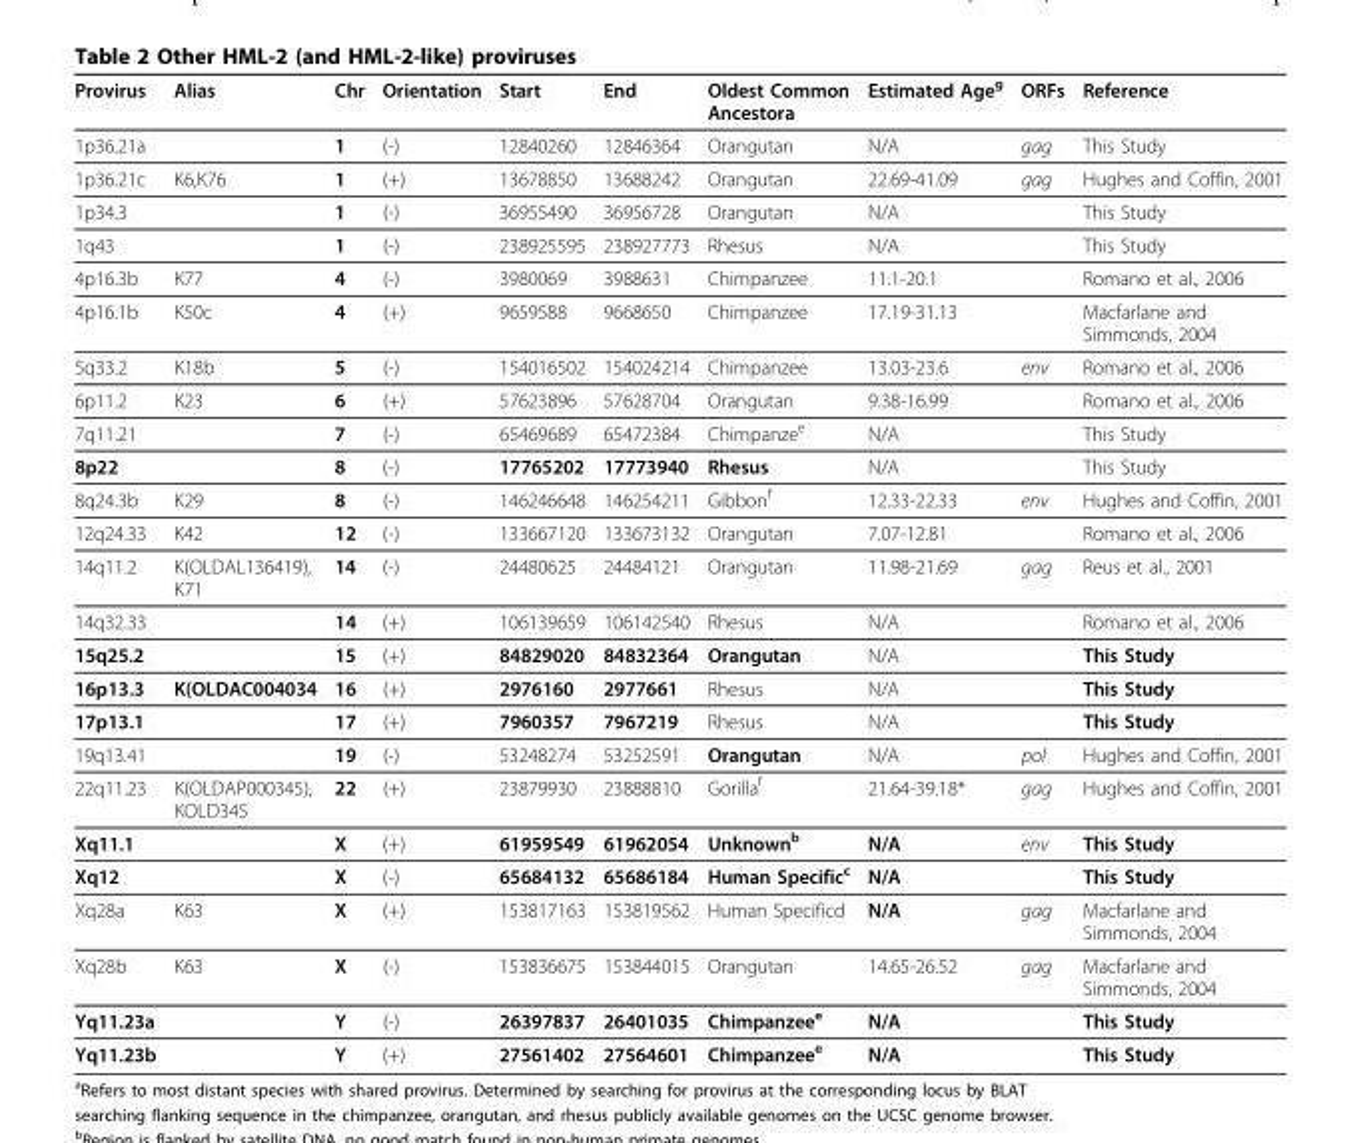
<table><thead><tr><td>Provirus</td><td>Alias</td><td>Chr</td><td>Orientation</td><td>Start</td><td>End</td><td>Oldest Common Ancestora</td><td>Estimated Age<sup>g</sup></td><td>ORFs</td><td>Reference</td></tr></thead><tbody><tr><td>1p36.21a</td><td></td><td>1</td><td>(-)</td><td>12840260</td><td>12846364</td><td>Orangutan</td><td>N/A</td><td>gag</td><td>This Study</td></tr><tr><td>1p36.21c</td><td>K6,K76</td><td>1</td><td>(+)</td><td>13678850</td><td>13688242</td><td>Orangutan</td><td>22.69-41.09</td><td>gag</td><td>Hughes and Coffin, 2001</td></tr><tr><td>1p34.3</td><td></td><td>1</td><td>(-)</td><td>36955490</td><td>36956728</td><td>Orangutan</td><td>N/A</td><td></td><td>This Study</td></tr><tr><td>1q43</td><td></td><td>1</td><td>(-)</td><td>238925595</td><td>238927773</td><td>Rhesus</td><td>N/A</td><td></td><td>This Study</td></tr><tr><td>4p16.3b</td><td>K77</td><td>4</td><td>(-)</td><td>3980069</td><td>3988631</td><td>Chimpanzee</td><td>11.1-20.1</td><td></td><td>Romano et al., 2006</td></tr><tr><td>4p16.1b</td><td>K50c</td><td>4</td><td>(+)</td><td>9659588</td><td>9668650</td><td>Chimpanzee</td><td>17.19-31.13</td><td></td><td>Macfarlane and Simmonds, 2004</td></tr><tr><td>5q33.2</td><td>K18b</td><td>5</td><td>(-)</td><td>154016502</td><td>154024214</td><td>Chimpanzee</td><td>13.03-23.6</td><td>env</td><td>Romano et al., 2006</td></tr><tr><td>6p11.2</td><td>K23</td><td>6</td><td>(+)</td><td>57623896</td><td>57628704</td><td>Orangutan</td><td>9.38-16.99</td><td></td><td>Romano et al., 2006</td></tr><tr><td>7q11.21</td><td></td><td>7</td><td>(-)</td><td>65469689</td><td>65472384</td><td>Chimpanze<sup>e</sup></td><td>N/A</td><td></td><td>This Study</td></tr><tr><td>8p22</td><td></td><td>8</td><td>(-)</td><td>17765202</td><td>17773940</td><td>Rhesus</td><td>N/A</td><td></td><td>This Study</td></tr><tr><td>8q24.3b</td><td>K29</td><td>8</td><td>(-)</td><td>146246648</td><td>146254211</td><td>Gibbon<sup>f</sup></td><td>12.33-22.33</td><td>env</td><td>Hughes and Coffin, 2001</td></tr><tr><td>12q24.33</td><td>K42</td><td>12</td><td>(-)</td><td>133667120</td><td>133673132</td><td>Orangutan</td><td>7.07-12.81</td><td></td><td>Romano et al., 2006</td></tr><tr><td>14q11.2</td><td>K(OLDAL136419), K71</td><td>14</td><td>(-)</td><td>24480625</td><td>24484121</td><td>Orangutan</td><td>11.98-21.69</td><td>gag</td><td>Reus et al., 2001</td></tr><tr><td>14q32.33</td><td></td><td>14</td><td>(+)</td><td>106139659</td><td>106142540</td><td>Rhesus</td><td>N/A</td><td></td><td>Romano et al., 2006</td></tr><tr><td>15q25.2</td><td></td><td>15</td><td>(+)</td><td>84829020</td><td>84832364</td><td>Orangutan</td><td>N/A</td><td></td><td>This Study</td></tr><tr><td>16p13.3</td><td>K(OLDAC004034</td><td>16</td><td>(+)</td><td>2976160</td><td>2977661</td><td>Rhesus</td><td>N/A</td><td></td><td>This Study</td></tr><tr><td>17p13.1</td><td></td><td>17</td><td>(+)</td><td>7960357</td><td>7967219</td><td>Rhesus</td><td>N/A</td><td></td><td>This Study</td></tr><tr><td>19q13.41</td><td></td><td>19</td><td>(-)</td><td>53248274</td><td>53252591</td><td>Orangutan</td><td>N/A</td><td>pol</td><td>Hughes and Coffin, 2001</td></tr><tr><td>22q11.23</td><td>K(OLDAP000345), KOLD345</td><td>22</td><td>(+)</td><td>23879930</td><td>23888810</td><td>Gorilla<sup>f</sup></td><td>21.64-39.18*</td><td>gag</td><td>Hughes and Coffin, 2001</td></tr><tr><td>Xq11.1</td><td></td><td>X</td><td>(+)</td><td>61959549</td><td>61962054</td><td>Unknown<sup>b</sup></td><td>N/A</td><td>env</td><td>This Study</td></tr><tr><td>Xq12</td><td></td><td>X</td><td>(-)</td><td>65684132</td><td>65686184</td><td>Human Specific<sup>c</sup></td><td>N/A</td><td></td><td>This Study</td></tr><tr><td>Xq28a</td><td>K63</td><td>X</td><td>(+)</td><td>153817163</td><td>153819562</td><td>Human Specificd</td><td>N/A</td><td>gag</td><td>Macfarlane and Simmonds, 2004</td></tr><tr><td>Xq28b</td><td>K63</td><td>X</td><td>(-)</td><td>153836675</td><td>153844015</td><td>Orangutan</td><td>14.65-26.52</td><td>gag</td><td>Macfarlane and Simmonds, 2004</td></tr><tr><td>Yq11.23a</td><td></td><td>Y</td><td>(-)</td><td>26397837</td><td>26401035</td><td>Chimpanzee<sup>e</sup></td><td>N/A</td><td></td><td>This Study</td></tr><tr><td>Yq11.23b</td><td></td><td>Y</td><td>(+)</td><td>27561402</td><td>27564601</td><td>Chimpanzee<sup>e</sup></td><td>N/A</td><td></td><td>This Study</td></tr></tbody></table>